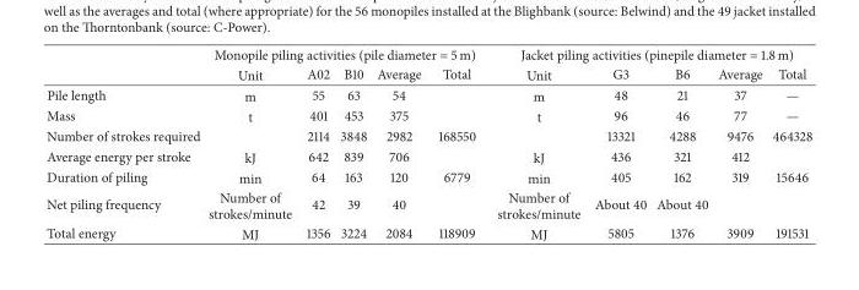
<table><thead><tr><td rowspan="2"></td><td colspan="5">Monopile piling activities (pile diameter = 5 m)</td><td colspan="5">Jacket piling activities (pinepile diameter = 1.8 m)</td></tr><tr><td>Unit</td><td>A02</td><td>B10</td><td>Average</td><td>Total</td><td>Unit</td><td>G3</td><td>B6</td><td>Average</td><td>Total</td></tr></thead><tbody><tr><td>Pile length</td><td>m</td><td>55</td><td>63</td><td>54</td><td></td><td>m</td><td>48</td><td>21</td><td>37</td><td>—</td></tr><tr><td>Mass</td><td>t</td><td>401</td><td>453</td><td>375</td><td></td><td>t</td><td>96</td><td>46</td><td>77</td><td>—</td></tr><tr><td>Number of strokes required</td><td></td><td>2114</td><td>3848</td><td>2982</td><td>168550</td><td></td><td>13321</td><td>4288</td><td>9476</td><td>464328</td></tr><tr><td>Average energy per stroke</td><td>kJ</td><td>642</td><td>839</td><td>706</td><td></td><td>kJ</td><td>436</td><td>321</td><td>412</td><td></td></tr><tr><td>Duration of piling</td><td>min</td><td>64</td><td>163</td><td>120</td><td>6779</td><td>min</td><td>405</td><td>162</td><td>319</td><td>15646</td></tr><tr><td>Net piling frequency</td><td>Number of strokes/minute</td><td>42</td><td>39</td><td>40</td><td></td><td>Number of strokes/minute</td><td>About 40</td><td>About 40</td><td></td><td></td></tr><tr><td>Total energy</td><td>MJ</td><td>1356</td><td>3224</td><td>2084</td><td>118909</td><td>MJ</td><td>5805</td><td>1376</td><td>3909</td><td>191531</td></tr></tbody></table>